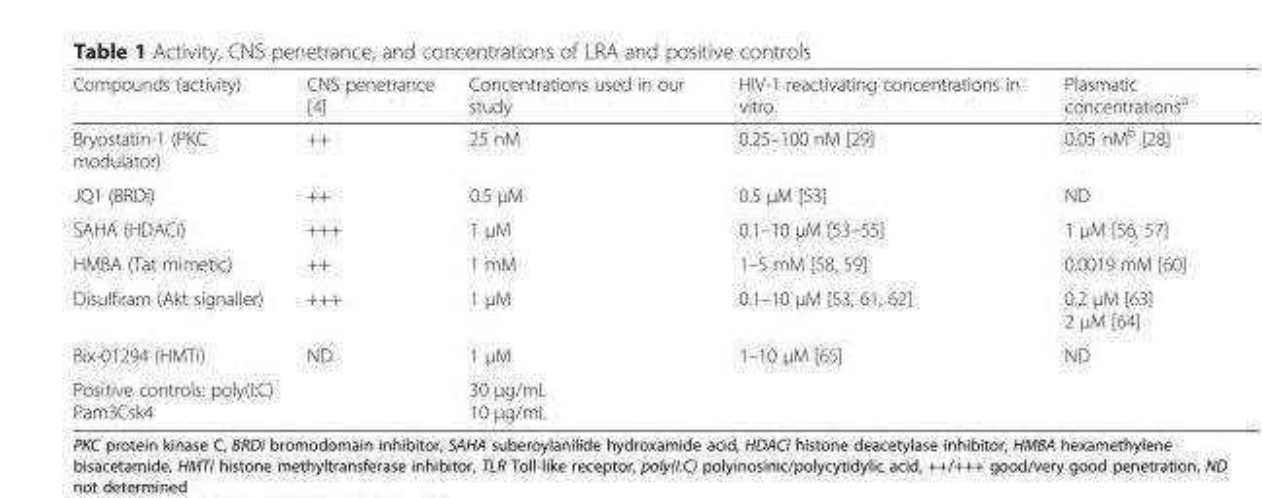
<table><thead><tr><td>Compounds (activity)</td><td>CNS penetrance [4]</td><td>Concentrations used in our study</td><td>HIV-1 reactivating concentrations in vitro</td><td>Plasmatic concentrations<sup>a</sup></td></tr></thead><tbody><tr><td>Bryostatin-1 (PKC modulator)</td><td>++</td><td>25 nM</td><td>0.25–100 nM [29]</td><td>0.05 nM<sup>b</sup> [28]</td></tr><tr><td>JQ1 (BRDi)</td><td>++</td><td>0.5 μM</td><td>0.5 μM [53]</td><td>ND</td></tr><tr><td>SAHA (HDACi)</td><td>+++</td><td>1 μM</td><td>0.1–10 μM [53–55]</td><td>1 μM [56, 57]</td></tr><tr><td>HMBA (Tat mimetic)</td><td>++</td><td>1 mM</td><td>1–5 mM [58, 59]</td><td>0.0019 mM [60]</td></tr><tr><td>Disulfiram (Akt signaller)</td><td>+++</td><td>1 μM</td><td>0.1–10 μM [53, 61, 62]</td><td>0.2 μM [63] 2 μM [64]</td></tr><tr><td>Bix-01294 (HMTi)</td><td>ND</td><td>1 μM</td><td>1–10 μM [65]</td><td>ND</td></tr><tr><td>Positive controls: poly(I:C) Pam3Csk4</td><td></td><td>30 μg/mL 10 μg/mL</td><td></td><td></td></tr></tbody></table>